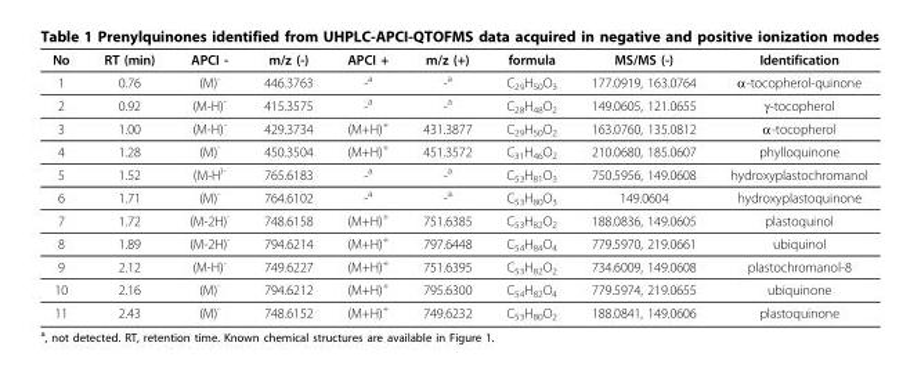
<table><thead><tr><td>No</td><td>RT (min)</td><td>APCI -</td><td>m/z (-)</td><td>APCI +</td><td>m/z (+)</td><td>formula</td><td>MS/MS (-)</td><td>Identification</td></tr></thead><tbody><tr><td>1</td><td>0.76</td><td>(M)<sup>-</sup></td><td>446.3763</td><td>-<sup>a</sup></td><td>-<sup>a</sup></td><td>C<sub>29</sub>H<sub>50</sub>O<sub>3</sub></td><td>177.0919, 163.0764</td><td>α-tocopherol-quinone</td></tr><tr><td>2</td><td>0.92</td><td>(M-H)<sup>-</sup></td><td>415.3575</td><td>-<sup>a</sup></td><td>-<sup>a</sup></td><td>C<sub>28</sub>H<sub>48</sub>O<sub>2</sub></td><td>149.0605, 121.0655</td><td>γ-tocopherol</td></tr><tr><td>3</td><td>1.00</td><td>(M-H)<sup>-</sup></td><td>429.3734</td><td>(M+H)<sup>+</sup></td><td>431.3877</td><td>C<sub>29</sub>H<sub>50</sub>O<sub>2</sub></td><td>163.0760, 135.0812</td><td>α-tocopherol</td></tr><tr><td>4</td><td>1.28</td><td>(M)<sup>-</sup></td><td>450.3504</td><td>(M+H)<sup>+</sup></td><td>451.3572</td><td>C<sub>31</sub>H<sub>46</sub>O<sub>2</sub></td><td>210.0680, 185.0607</td><td>phylloquinone</td></tr><tr><td>5</td><td>1.52</td><td>(M-H<sup>)-</sup></td><td>765.6183</td><td>-<sup>a</sup></td><td>-<sup>a</sup></td><td>C<sub>53</sub>H<sub>81</sub>O<sub>3</sub></td><td>750.5956, 149.0608</td><td>hydroxyplastochromanol</td></tr><tr><td>6</td><td>1.71</td><td>(M)<sup>-</sup></td><td>764.6102</td><td>-<sup>a</sup></td><td>-<sup>a</sup></td><td>C<sub>53</sub>H<sub>80</sub>O<sub>3</sub></td><td>149.0604</td><td>hydroxyplastoquinone</td></tr><tr><td>7</td><td>1.72</td><td>(M-2H)<sup>-</sup></td><td>748.6158</td><td>(M+H)<sup>+</sup></td><td>751.6385</td><td>C<sub>53</sub>H<sub>82</sub>O<sub>2</sub></td><td>188.0836, 149.0605</td><td>plastoquinol</td></tr><tr><td>8</td><td>1.89</td><td>(M-2H)<sup>-</sup></td><td>794.6214</td><td>(M+H)<sup>+</sup></td><td>797.6448</td><td>C<sub>54</sub>H<sub>84</sub>O<sub>4</sub></td><td>779.5970, 219.0661</td><td>ubiquinol</td></tr><tr><td>9</td><td>2.12</td><td>(M-H)<sup>-</sup></td><td>749.6227</td><td>(M+H)<sup>+</sup></td><td>751.6395</td><td>C<sub>53</sub>H<sub>82</sub>O<sub>2</sub></td><td>734.6009, 149.0608</td><td>plastochromanol-8</td></tr><tr><td>10</td><td>2.16</td><td>(M)<sup>-</sup></td><td>794.6212</td><td>(M+H)<sup>+</sup></td><td>795.6300</td><td>C<sub>54</sub>H<sub>82</sub>O<sub>4</sub></td><td>779.5974, 219.0655</td><td>ubiquinone</td></tr><tr><td>11</td><td>2.43</td><td>(M)<sup>-</sup></td><td>748.6152</td><td>(M+H)<sup>+</sup></td><td>749.6232</td><td>C<sub>53</sub>H<sub>80</sub>O<sub>2</sub></td><td>188.0841, 149.0606</td><td>plastoquinone</td></tr></tbody></table>